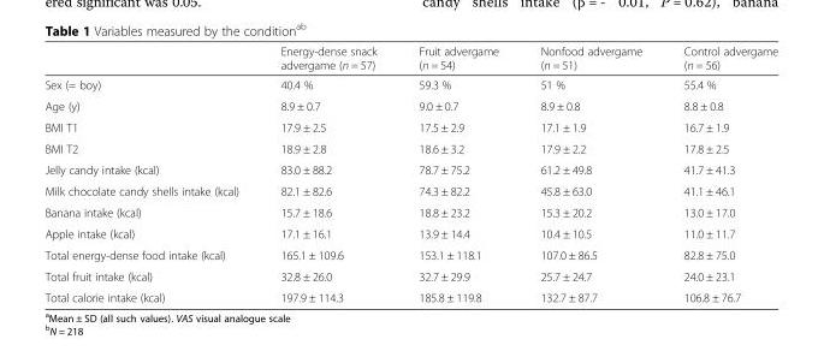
<table><thead><tr><td></td><td>Energy-dense snack advergame (n = 57)</td><td>Fruit advergame (n = 54)</td><td>Nonfood advergame (n = 51)</td><td>Control advergame (n = 56)</td></tr></thead><tbody><tr><td>Sex (= boy)</td><td>40.4 %</td><td>59.3 %</td><td>51 %</td><td>55.4 %</td></tr><tr><td>Age (y)</td><td>8.9 ± 0.7</td><td>9.0 ± 0.7</td><td>8.9 ± 0.8</td><td>8.8 ± 0.8</td></tr><tr><td>BMI T1</td><td>17.9 ± 2.5</td><td>17.5 ± 2.9</td><td>17.1 ± 1.9</td><td>16.7 ± 1.9</td></tr><tr><td>BMI T2</td><td>18.9 ± 2.8</td><td>18.6 ± 3.2</td><td>17.9 ± 2.2</td><td>17.8 ± 2.5</td></tr><tr><td>Jelly candy intake (kcal)</td><td>83.0 ± 88.2</td><td>78.7 ± 75.2</td><td>61.2 ± 49.8</td><td>41.7 ± 41.3</td></tr><tr><td>Milk chocolate candy shells intake (kcal)</td><td>82.1 ± 82.6</td><td>74.3 ± 82.2</td><td>45.8 ± 63.0</td><td>41.1 ± 46.1</td></tr><tr><td>Banana intake (kcal)</td><td>15.7 ± 18.6</td><td>18.8 ± 23.2</td><td>15.3 ± 20.2</td><td>13.0 ± 17.0</td></tr><tr><td>Apple intake (kcal)</td><td>17.1 ± 16.1</td><td>13.9 ± 14.4</td><td>10.4 ± 10.5</td><td>11.0 ± 11.7</td></tr><tr><td>Total energy-dense food intake (kcal)</td><td>165.1 ± 109.6</td><td>153.1 ± 118.1</td><td>107.0 ± 86.5</td><td>82.8 ± 75.0</td></tr><tr><td>Total fruit intake (kcal)</td><td>32.8 ± 26.0</td><td>32.7 ± 29.9</td><td>25.7 ± 24.7</td><td>24.0 ± 23.1</td></tr><tr><td>Total calorie intake (kcal)</td><td>197.9 ± 114.3</td><td>185.8 ± 119.8</td><td>132.7 ± 87.7</td><td>106.8 ± 76.7</td></tr></tbody></table>